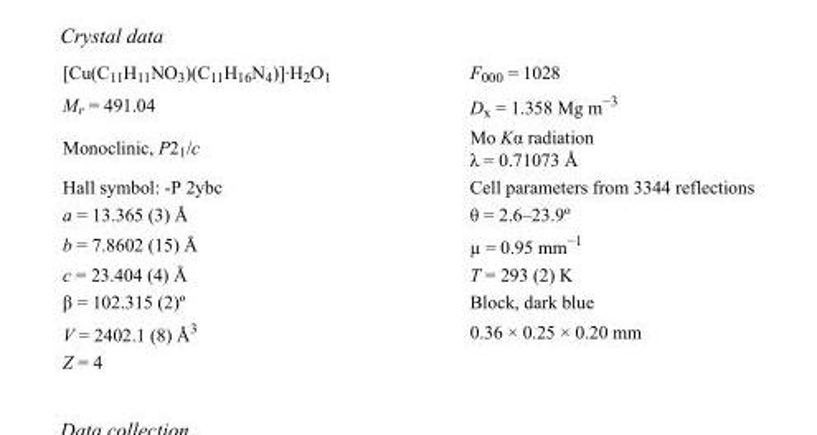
<table><tbody><tr><td>[Cu(C<sub>11</sub>H<sub>11</sub>NO<sub>3</sub>)(C<sub>11</sub>H<sub>16</sub>N<sub>4</sub>)]·H<sub>2</sub>O<sub>1</sub></td><td>F<sub>000</sub> = 1028</td></tr><tr><td>M<sub>r</sub> = 491.04</td><td>D<sub>x</sub> = 1.358 Mg m<sup>−3</sup></td></tr><tr><td>Monoclinic, P2<sub>1</sub>/c</td><td>Mo Kα radiation λ = 0.71073 Å</td></tr><tr><td>Hall symbol: -P 2ybc</td><td>Cell parameters from 3344 reflections</td></tr><tr><td>a = 13.365 (3) Å</td><td>θ = 2.6–23.9º</td></tr><tr><td>b = 7.8602 (15) Å</td><td>µ = 0.95 mm<sup>−1</sup></td></tr><tr><td>c = 23.404 (4) Å</td><td>T = 293 (2) K</td></tr><tr><td>β = 102.315 (2)º</td><td>Block, dark blue</td></tr><tr><td>V = 2402.1 (8) Å<sup>3</sup></td><td>0.36 × 0.25 × 0.20 mm</td></tr><tr><td>Z = 4</td><td></td></tr></tbody></table>